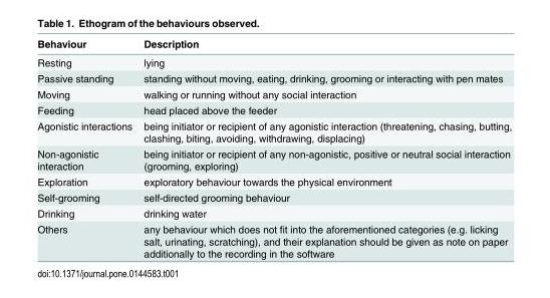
<table><thead><tr><td>Behaviour</td><td>Description</td></tr></thead><tbody><tr><td>Resting</td><td>lying</td></tr><tr><td>Passive standing</td><td>standing without moving, eating, drinking, grooming or interacting with pen mates</td></tr><tr><td>Moving</td><td>walking or running without any social interaction</td></tr><tr><td>Feeding</td><td>head placed above the feeder</td></tr><tr><td>Agonistic interactions</td><td>being initiator or recipient of any agonistic interaction (threatening, chasing, butting, clashing, biting, avoiding, withdrawing, displacing)</td></tr><tr><td>Non-agonistic interaction</td><td>being initiator or recipient of any non-agonistic, positive or neutral social interaction (grooming, exploring)</td></tr><tr><td>Exploration</td><td>exploratory behaviour towards the physical environment</td></tr><tr><td>Self-grooming</td><td>self-directed grooming behaviour</td></tr><tr><td>Drinking</td><td>drinking water</td></tr><tr><td>Others</td><td>any behaviour which does not fit into the aforementioned categories (e.g. licking salt, urinating, scratching), and their explanation should be given as note on paper additionally to the recording in the software</td></tr></tbody></table>